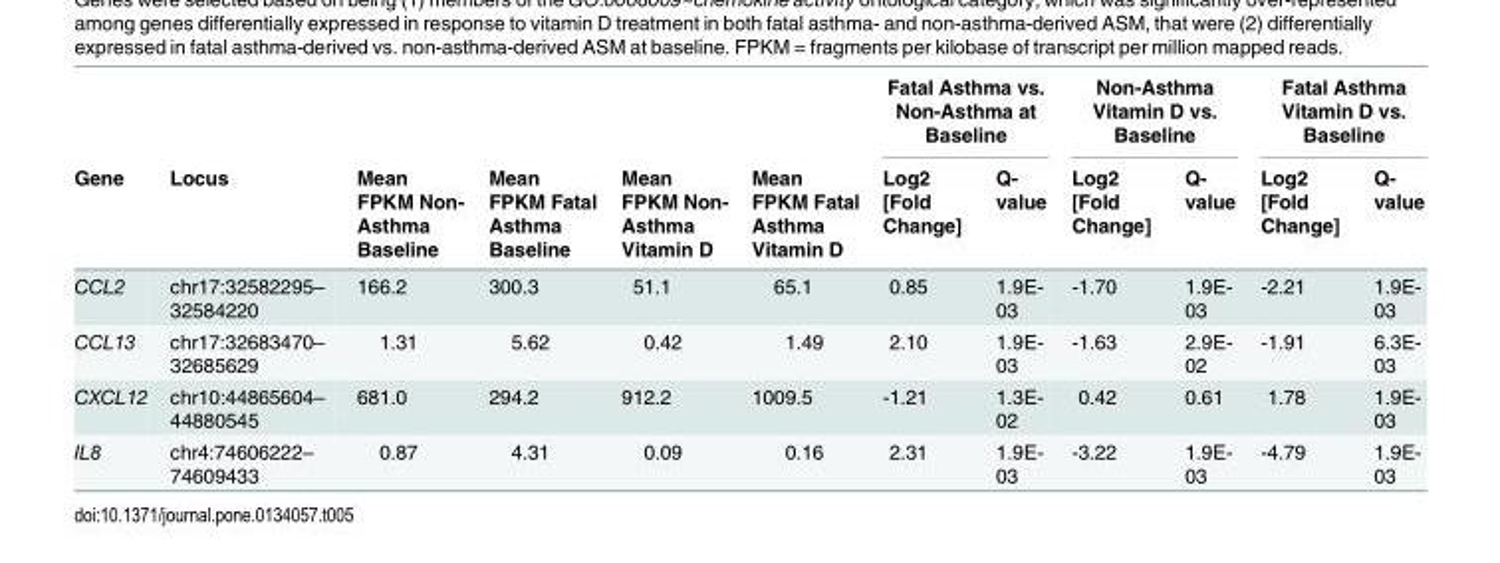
<table><thead><tr><td rowspan="2">Gene</td><td rowspan="2">Locus</td><td rowspan="2">Mean FPKM Non- Asthma Baseline</td><td rowspan="2">Mean FPKM Fatal Asthma Baseline</td><td rowspan="2">Mean FPKM Non- Asthma Vitamin D</td><td rowspan="2">Mean FPKM Fatal Asthma Vitamin D</td><td colspan="2">Fatal Asthma vs. Non-Asthma at Baseline</td><td colspan="2">Non-Asthma Vitamin D vs. Baseline</td><td colspan="2">Fatal Asthma Vitamin D vs. Baseline</td></tr><tr><td>Log2 [Fold Change]</td><td>Q- value</td><td>Log2 [Fold Change]</td><td>Q- value</td><td>Log2 [Fold Change]</td><td>Q- value</td></tr></thead><tbody><tr><td>CCL2</td><td>chr17:32582295– 32584220</td><td>166.2</td><td>300.3</td><td>51.1</td><td>65.1</td><td>0.85</td><td>1.9E- 03</td><td>-1.70</td><td>1.9E- 03</td><td>-2.21</td><td>1.9E- 03</td></tr><tr><td>CCL13</td><td>chr17:32683470– 32685629</td><td>1.31</td><td>5.62</td><td>0.42</td><td>1.49</td><td>2.10</td><td>1.9E- 03</td><td>-1.63</td><td>2.9E- 02</td><td>-1.91</td><td>6.3E- 03</td></tr><tr><td>CXCL12</td><td>chr10:44865604– 44880545</td><td>681.0</td><td>294.2</td><td>912.2</td><td>1009.5</td><td>-1.21</td><td>1.3E- 02</td><td>0.42</td><td>0.61</td><td>1.78</td><td>1.9E- 03</td></tr><tr><td>IL8</td><td>chr4:74606222– 74609433</td><td>0.87</td><td>4.31</td><td>0.09</td><td>0.16</td><td>2.31</td><td>1.9E- 03</td><td>-3.22</td><td>1.9E- 03</td><td>-4.79</td><td>1.9E- 03</td></tr></tbody></table>